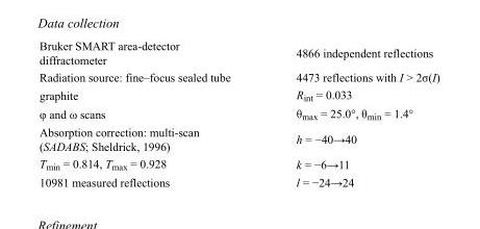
<table><tbody><tr><td>Bruker SMART area-detector diffractometer</td><td>4866 independent reflections</td></tr><tr><td>Radiation source: fine–focus sealed tube</td><td>4473 reflections with I &gt; 2σ(I)</td></tr><tr><td>graphite</td><td>R<sub>int</sub> = 0.033</td></tr><tr><td>φ and ω scans</td><td>θ<sub>max</sub> = 25.0°, θ<sub>min</sub> = 1.4°</td></tr><tr><td>Absorption correction: multi-scan (SADABS; Sheldrick, 1996)</td><td>h = −40→40</td></tr><tr><td>T<sub>min</sub> = 0.814, T<sub>max</sub> = 0.928</td><td>k = −6→11</td></tr><tr><td>10981 measured reflections</td><td>l = −24→24</td></tr></tbody></table>